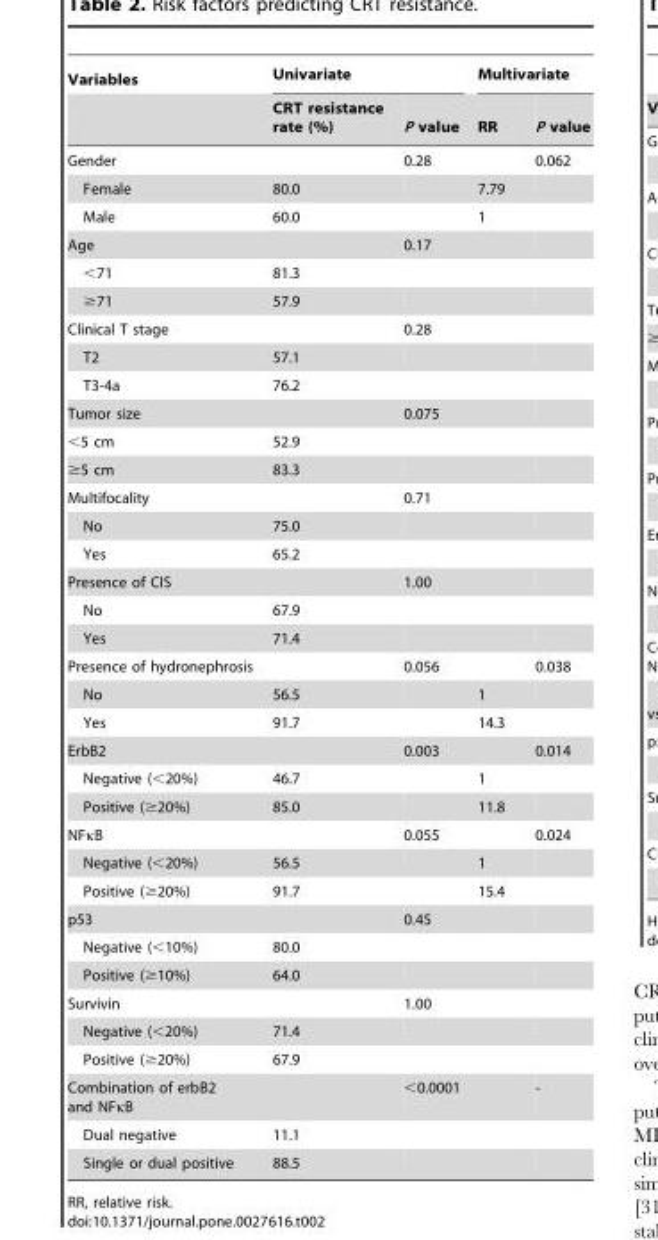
<table><thead><tr><td rowspan="2">Variables</td><td colspan="2">Univariate</td><td colspan="2">Multivariate</td></tr><tr><td>CRT resistance rate (%)</td><td>P value</td><td>RR</td><td>P value</td></tr></thead><tbody><tr><td>Gender</td><td></td><td>0.28</td><td></td><td>0.062</td></tr><tr><td>Female</td><td>80.0</td><td></td><td>7.79</td><td></td></tr><tr><td>Male</td><td>60.0</td><td></td><td>1</td><td></td></tr><tr><td>Age</td><td></td><td>0.17</td><td></td><td></td></tr><tr><td>&lt;71</td><td>81.3</td><td></td><td></td><td></td></tr><tr><td>≥71</td><td>57.9</td><td></td><td></td><td></td></tr><tr><td>Clinical T stage</td><td></td><td>0.28</td><td></td><td></td></tr><tr><td>T2</td><td>57.1</td><td></td><td></td><td></td></tr><tr><td>T3-4a</td><td>76.2</td><td></td><td></td><td></td></tr><tr><td>Tumor size</td><td></td><td>0.075</td><td></td><td></td></tr><tr><td>&lt;5 cm</td><td>52.9</td><td></td><td></td><td></td></tr><tr><td>≥5 cm</td><td>83.3</td><td></td><td></td><td></td></tr><tr><td>Multifocality</td><td></td><td>0.71</td><td></td><td></td></tr><tr><td>No</td><td>75.0</td><td></td><td></td><td></td></tr><tr><td>Yes</td><td>65.2</td><td></td><td></td><td></td></tr><tr><td>Presence of CIS</td><td></td><td>1.00</td><td></td><td></td></tr><tr><td>No</td><td>67.9</td><td></td><td></td><td></td></tr><tr><td>Yes</td><td>71.4</td><td></td><td></td><td></td></tr><tr><td>Presence of hydronephrosis</td><td></td><td>0.056</td><td></td><td>0.038</td></tr><tr><td>No</td><td>56.5</td><td></td><td>1</td><td></td></tr><tr><td>Yes</td><td>91.7</td><td></td><td>14.3</td><td></td></tr><tr><td>ErbB2</td><td></td><td>0.003</td><td></td><td>0.014</td></tr><tr><td>Negative (&lt;20%)</td><td>46.7</td><td></td><td>1</td><td></td></tr><tr><td>Positive (≥20%)</td><td>85.0</td><td></td><td>11.8</td><td></td></tr><tr><td>NFκB</td><td></td><td>0.055</td><td></td><td>0.024</td></tr><tr><td>Negative (&lt;20%)</td><td>56.5</td><td></td><td>1</td><td></td></tr><tr><td>Positive (≥20%)</td><td>91.7</td><td></td><td>15.4</td><td></td></tr><tr><td>p53</td><td></td><td>0.45</td><td></td><td></td></tr><tr><td>Negative (&lt;10%)</td><td>80.0</td><td></td><td></td><td></td></tr><tr><td>Positive (≥10%)</td><td>64.0</td><td></td><td></td><td></td></tr><tr><td>Survivin</td><td></td><td>1.00</td><td></td><td></td></tr><tr><td>Negative (&lt;20%)</td><td>71.4</td><td></td><td></td><td></td></tr><tr><td>Positive (≥20%)</td><td>67.9</td><td></td><td></td><td></td></tr><tr><td>Combination of erbB2 and NFκB</td><td></td><td>&lt;0.0001</td><td></td><td>-</td></tr><tr><td>Dual negative</td><td>11.1</td><td></td><td></td><td></td></tr><tr><td>Single or dual positive</td><td>88.5</td><td></td><td></td><td></td></tr></tbody></table>